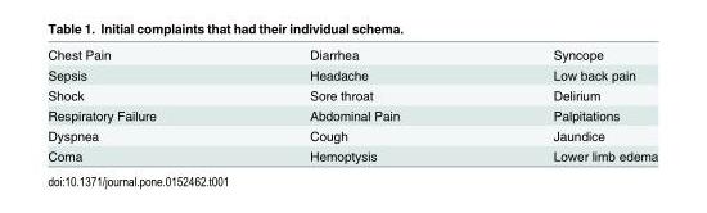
<table><tbody><tr><td>Chest Pain</td><td>Diarrhea</td><td>Syncope</td></tr><tr><td>Sepsis</td><td>Headache</td><td>Low back pain</td></tr><tr><td>Shock</td><td>Sore throat</td><td>Delirium</td></tr><tr><td>Respiratory Failure</td><td>Abdominal Pain</td><td>Palpitations</td></tr><tr><td>Dyspnea</td><td>Cough</td><td>Jaundice</td></tr><tr><td>Coma</td><td>Hemoptysis</td><td>Lower limb edema</td></tr></tbody></table>